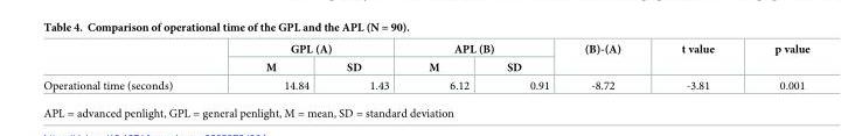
<table><thead><tr><td rowspan="2"></td><td colspan="2">GPL (A)</td><td colspan="2">APL (B)</td><td rowspan="2">(B)-(A)</td><td rowspan="2">t value</td><td rowspan="2">p value</td></tr><tr><td>M</td><td>SD</td><td>M</td><td>SD</td></tr></thead><tbody><tr><td>Operational time (seconds)</td><td>14.84</td><td>1.43</td><td>6.12</td><td>0.91</td><td>-8.72</td><td>-3.81</td><td>0.001</td></tr></tbody></table>